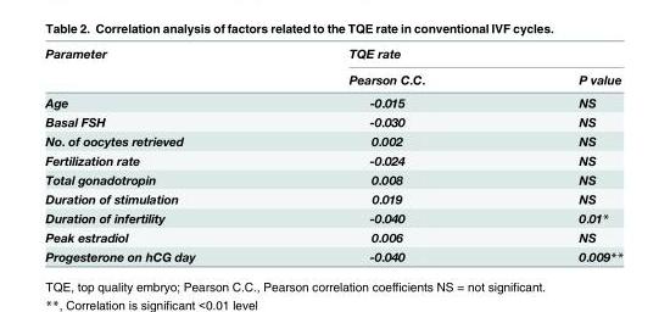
<table><thead><tr><td rowspan="2">Parameter</td><td colspan="2">TQE rate</td></tr><tr><td>Pearson C.C.</td><td>P value</td></tr></thead><tbody><tr><td>Age</td><td>-0.015</td><td>NS</td></tr><tr><td>Basal FSH</td><td>-0.030</td><td>NS</td></tr><tr><td>No. of oocytes retrieved</td><td>0.002</td><td>NS</td></tr><tr><td>Fertilization rate</td><td>-0.024</td><td>NS</td></tr><tr><td>Total gonadotropin</td><td>0.008</td><td>NS</td></tr><tr><td>Duration of stimulation</td><td>0.019</td><td>NS</td></tr><tr><td>Duration of infertility</td><td>-0.040</td><td>0.01*</td></tr><tr><td>Peak estradiol</td><td>0.006</td><td>NS</td></tr><tr><td>Progesterone on hCG day</td><td>-0.040</td><td>0.009**</td></tr></tbody></table>